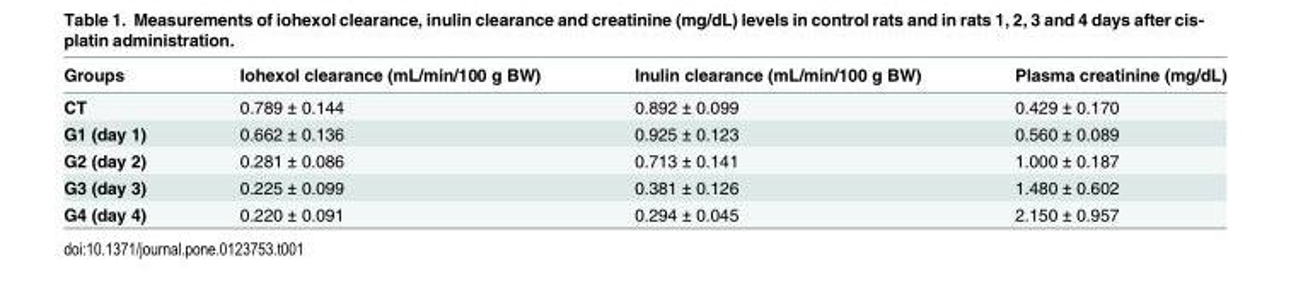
<table><thead><tr><td>Groups</td><td>Iohexol clearance (mL/min/100 g BW)</td><td>Inulin clearance (mL/min/100 g BW)</td><td>Plasma creatinine (mg/dL)</td></tr></thead><tbody><tr><td>CT</td><td>0.789 ± 0.144</td><td>0.892 ± 0.099</td><td>0.429 ± 0.170</td></tr><tr><td>G1 (day 1)</td><td>0.662 ± 0.136</td><td>0.925 ± 0.123</td><td>0.560 ± 0.089</td></tr><tr><td>G2 (day 2)</td><td>0.281 ± 0.086</td><td>0.713 ± 0.141</td><td>1.000 ± 0.187</td></tr><tr><td>G3 (day 3)</td><td>0.225 ± 0.099</td><td>0.381 ± 0.126</td><td>1.480 ± 0.602</td></tr><tr><td>G4 (day 4)</td><td>0.220 ± 0.091</td><td>0.294 ± 0.045</td><td>2.150 ± 0.957</td></tr></tbody></table>